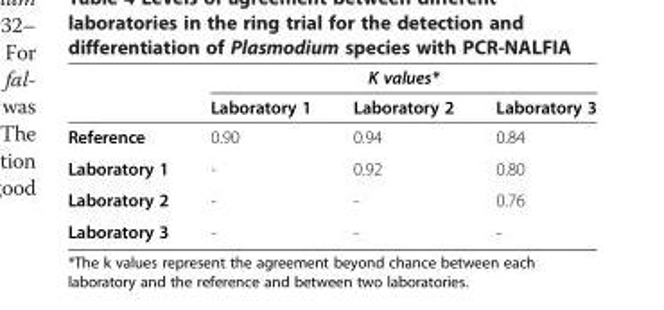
<table><thead><tr><td rowspan="2"></td><td colspan="3">K values*</td></tr><tr><td>Laboratory 1</td><td>Laboratory 2</td><td>Laboratory 3</td></tr></thead><tbody><tr><td>Reference</td><td>0.90</td><td>0.94</td><td>0.84</td></tr><tr><td>Laboratory 1</td><td>-</td><td>0.92</td><td>0.80</td></tr><tr><td>Laboratory 2</td><td>-</td><td>-</td><td>0.76</td></tr><tr><td>Laboratory 3</td><td>-</td><td>-</td><td>-</td></tr></tbody></table>